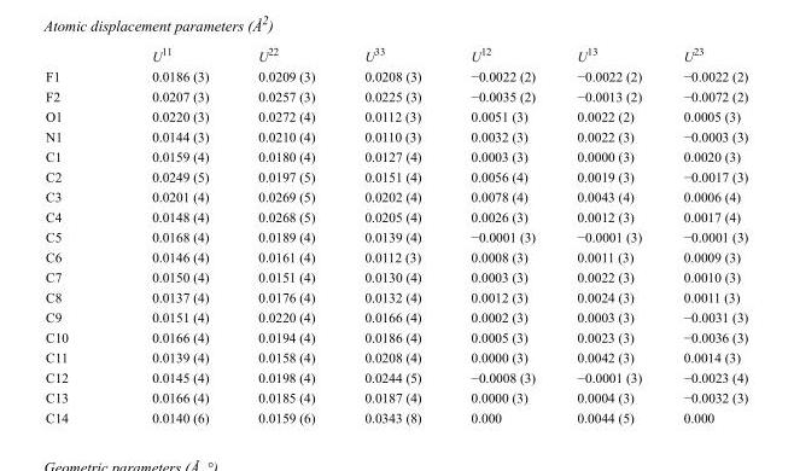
<table><thead><tr><td></td><td>U<sup>11</sup></td><td>U<sup>22</sup></td><td>U<sup>33</sup></td><td>U<sup>12</sup></td><td>U<sup>13</sup></td><td>U<sup>23</sup></td></tr></thead><tbody><tr><td>F1</td><td>0.0186 (3)</td><td>0.0209 (3)</td><td>0.0208 (3)</td><td>−0.0022 (2)</td><td>−0.0022 (2)</td><td>−0.0022 (2)</td></tr><tr><td>F2</td><td>0.0207 (3)</td><td>0.0257 (3)</td><td>0.0225 (3)</td><td>−0.0035 (2)</td><td>−0.0013 (2)</td><td>−0.0072 (2)</td></tr><tr><td>O1</td><td>0.0220 (3)</td><td>0.0272 (4)</td><td>0.0112 (3)</td><td>0.0051 (3)</td><td>0.0022 (2)</td><td>0.0005 (3)</td></tr><tr><td>N1</td><td>0.0144 (3)</td><td>0.0210 (4)</td><td>0.0110 (3)</td><td>0.0032 (3)</td><td>0.0022 (3)</td><td>−0.0003 (3)</td></tr><tr><td>C1</td><td>0.0159 (4)</td><td>0.0180 (4)</td><td>0.0127 (4)</td><td>0.0003 (3)</td><td>0.0000 (3)</td><td>0.0020 (3)</td></tr><tr><td>C2</td><td>0.0249 (5)</td><td>0.0197 (5)</td><td>0.0151 (4)</td><td>0.0056 (4)</td><td>0.0019 (3)</td><td>−0.0017 (3)</td></tr><tr><td>C3</td><td>0.0201 (4)</td><td>0.0269 (5)</td><td>0.0202 (4)</td><td>0.0078 (4)</td><td>0.0043 (4)</td><td>0.0006 (4)</td></tr><tr><td>C4</td><td>0.0148 (4)</td><td>0.0268 (5)</td><td>0.0205 (4)</td><td>0.0026 (3)</td><td>0.0012 (3)</td><td>0.0017 (4)</td></tr><tr><td>C5</td><td>0.0168 (4)</td><td>0.0189 (4)</td><td>0.0139 (4)</td><td>−0.0001 (3)</td><td>−0.0001 (3)</td><td>−0.0001 (3)</td></tr><tr><td>C6</td><td>0.0146 (4)</td><td>0.0161 (4)</td><td>0.0112 (3)</td><td>0.0008 (3)</td><td>0.0011 (3)</td><td>0.0009 (3)</td></tr><tr><td>C7</td><td>0.0150 (4)</td><td>0.0151 (4)</td><td>0.0130 (4)</td><td>0.0003 (3)</td><td>0.0022 (3)</td><td>0.0010 (3)</td></tr><tr><td>C8</td><td>0.0137 (4)</td><td>0.0176 (4)</td><td>0.0132 (4)</td><td>0.0012 (3)</td><td>0.0024 (3)</td><td>0.0011 (3)</td></tr><tr><td>C9</td><td>0.0151 (4)</td><td>0.0220 (4)</td><td>0.0166 (4)</td><td>0.0002 (3)</td><td>0.0003 (3)</td><td>−0.0031 (3)</td></tr><tr><td>C10</td><td>0.0166 (4)</td><td>0.0194 (4)</td><td>0.0186 (4)</td><td>0.0005 (3)</td><td>0.0023 (3)</td><td>−0.0036 (3)</td></tr><tr><td>C11</td><td>0.0139 (4)</td><td>0.0158 (4)</td><td>0.0208 (4)</td><td>0.0000 (3)</td><td>0.0042 (3)</td><td>0.0014 (3)</td></tr><tr><td>C12</td><td>0.0145 (4)</td><td>0.0198 (4)</td><td>0.0244 (5)</td><td>−0.0008 (3)</td><td>−0.0001 (3)</td><td>−0.0023 (4)</td></tr><tr><td>C13</td><td>0.0166 (4)</td><td>0.0185 (4)</td><td>0.0187 (4)</td><td>0.0000 (3)</td><td>0.0004 (3)</td><td>−0.0032 (3)</td></tr><tr><td>C14</td><td>0.0140 (6)</td><td>0.0159 (6)</td><td>0.0343 (8)</td><td>0.000</td><td>0.0044 (5)</td><td>0.000</td></tr></tbody></table>